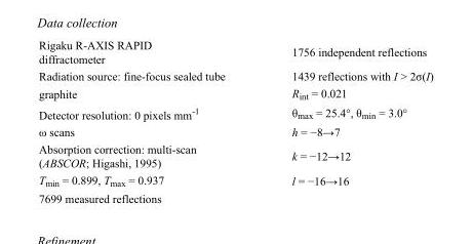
<table><tbody><tr><td>Rigaku R-AXIS RAPID diffractometer</td><td>1756 independent reflections</td></tr><tr><td>Radiation source: fine-focus sealed tube</td><td>1439 reflections with I &gt; 2σ(I)</td></tr><tr><td>graphite</td><td>R<sub>int</sub> = 0.021</td></tr><tr><td>Detector resolution: 0 pixels mm<sup>-1</sup></td><td>θ<sub>max</sub> = 25.4°, θ<sub>min</sub> = 3.0°</td></tr><tr><td>ω scans</td><td>h = −8→7</td></tr><tr><td>Absorption correction: multi-scan (ABSCOR; Higashi, 1995)</td><td>k = −12→12</td></tr><tr><td>T<sub>min</sub> = 0.899, T<sub>max</sub> = 0.937</td><td>l = −16→16</td></tr><tr><td>7699 measured reflections</td><td></td></tr></tbody></table>